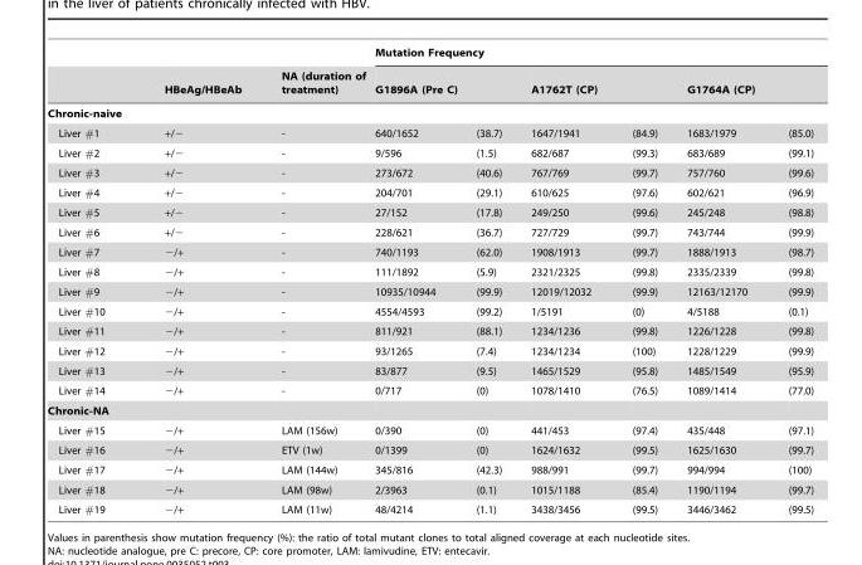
<table><thead><tr><td rowspan="3">Chronic-naive</td><td rowspan="3">HBeAg/HBeAb</td><td rowspan="3">NA (duration of treatment)</td><td colspan="6">Mutation Frequency</td></tr><tr><td colspan="2">G1896A (Pre C)</td><td colspan="2">A1762T (CP)</td><td colspan="2">G1764A (CP)</td></tr><tr><td></td><td></td><td></td><td></td><td></td><td></td></tr></thead><tbody><tr><td>Liver #1</td><td>+/−</td><td>-</td><td>640/1652</td><td>(38.7)</td><td>1647/1941</td><td>(84.9)</td><td>1683/1979</td><td>(85.0)</td></tr><tr><td>Liver #2</td><td>+/−</td><td>-</td><td>9/596</td><td>(1.5)</td><td>682/687</td><td>(99.3)</td><td>683/689</td><td>(99.1)</td></tr><tr><td>Liver #3</td><td>+/−</td><td>-</td><td>273/672</td><td>(40.6)</td><td>767/769</td><td>(99.7)</td><td>757/760</td><td>(99.6)</td></tr><tr><td>Liver #4</td><td>+/−</td><td>-</td><td>204/701</td><td>(29.1)</td><td>610/625</td><td>(97.6)</td><td>602/621</td><td>(96.9)</td></tr><tr><td>Liver #5</td><td>+/−</td><td>-</td><td>27/152</td><td>(17.8)</td><td>249/250</td><td>(99.6)</td><td>245/248</td><td>(98.8)</td></tr><tr><td>Liver #6</td><td>+/−</td><td>-</td><td>228/621</td><td>(36.7)</td><td>727/729</td><td>(99.7)</td><td>743/744</td><td>(99.9)</td></tr><tr><td>Liver #7</td><td>−/+</td><td>-</td><td>740/1193</td><td>(62.0)</td><td>1908/1913</td><td>(99.7)</td><td>1888/1913</td><td>(98.7)</td></tr><tr><td>Liver #8</td><td>−/+</td><td>-</td><td>111/1892</td><td>(5.9)</td><td>2321/2325</td><td>(99.8)</td><td>2335/2339</td><td>(99.8)</td></tr><tr><td>Liver #9</td><td>−/+</td><td>-</td><td>10935/10944</td><td>(99.9)</td><td>12019/12032</td><td>(99.9)</td><td>12163/12170</td><td>(99.9)</td></tr><tr><td>Liver #10</td><td>−/+</td><td>-</td><td>4554/4593</td><td>(99.2)</td><td>1/5191</td><td>(0)</td><td>4/5188</td><td>(0.1)</td></tr><tr><td>Liver #11</td><td>−/+</td><td>-</td><td>811/921</td><td>(88.1)</td><td>1234/1236</td><td>(99.8)</td><td>1226/1228</td><td>(99.8)</td></tr><tr><td>Liver #12</td><td>−/+</td><td>-</td><td>93/1265</td><td>(7.4)</td><td>1234/1234</td><td>(100)</td><td>1228/1229</td><td>(99.9)</td></tr><tr><td>Liver #13</td><td>−/+</td><td>-</td><td>83/877</td><td>(9.5)</td><td>1465/1529</td><td>(95.8)</td><td>1485/1549</td><td>(95.9)</td></tr><tr><td>Liver #14</td><td>−/+</td><td>-</td><td>0/717</td><td>(0)</td><td>1078/1410</td><td>(76.5)</td><td>1089/1414</td><td>(77.0)</td></tr><tr><td colspan="9">Chronic-NA</td></tr><tr><td>Liver #15</td><td>−/+</td><td>LAM (156w)</td><td>0/390</td><td>(0)</td><td>441/453</td><td>(97.4)</td><td>435/448</td><td>(97.1)</td></tr><tr><td>Liver #16</td><td>−/+</td><td>ETV (1w)</td><td>0/1399</td><td>(0)</td><td>1624/1632</td><td>(99.5)</td><td>1625/1630</td><td>(99.7)</td></tr><tr><td>Liver #17</td><td>−/+</td><td>LAM (144w)</td><td>345/816</td><td>(42.3)</td><td>988/991</td><td>(99.7)</td><td>994/994</td><td>(100)</td></tr><tr><td>Liver #18</td><td>−/+</td><td>LAM (98w)</td><td>2/3963</td><td>(0.1)</td><td>1015/1188</td><td>(85.4)</td><td>1190/1194</td><td>(99.7)</td></tr><tr><td>Liver #19</td><td>−/+</td><td>LAM (11w)</td><td>48/4214</td><td>(1.1)</td><td>3438/3456</td><td>(99.5)</td><td>3446/3462</td><td>(99.5)</td></tr></tbody></table>